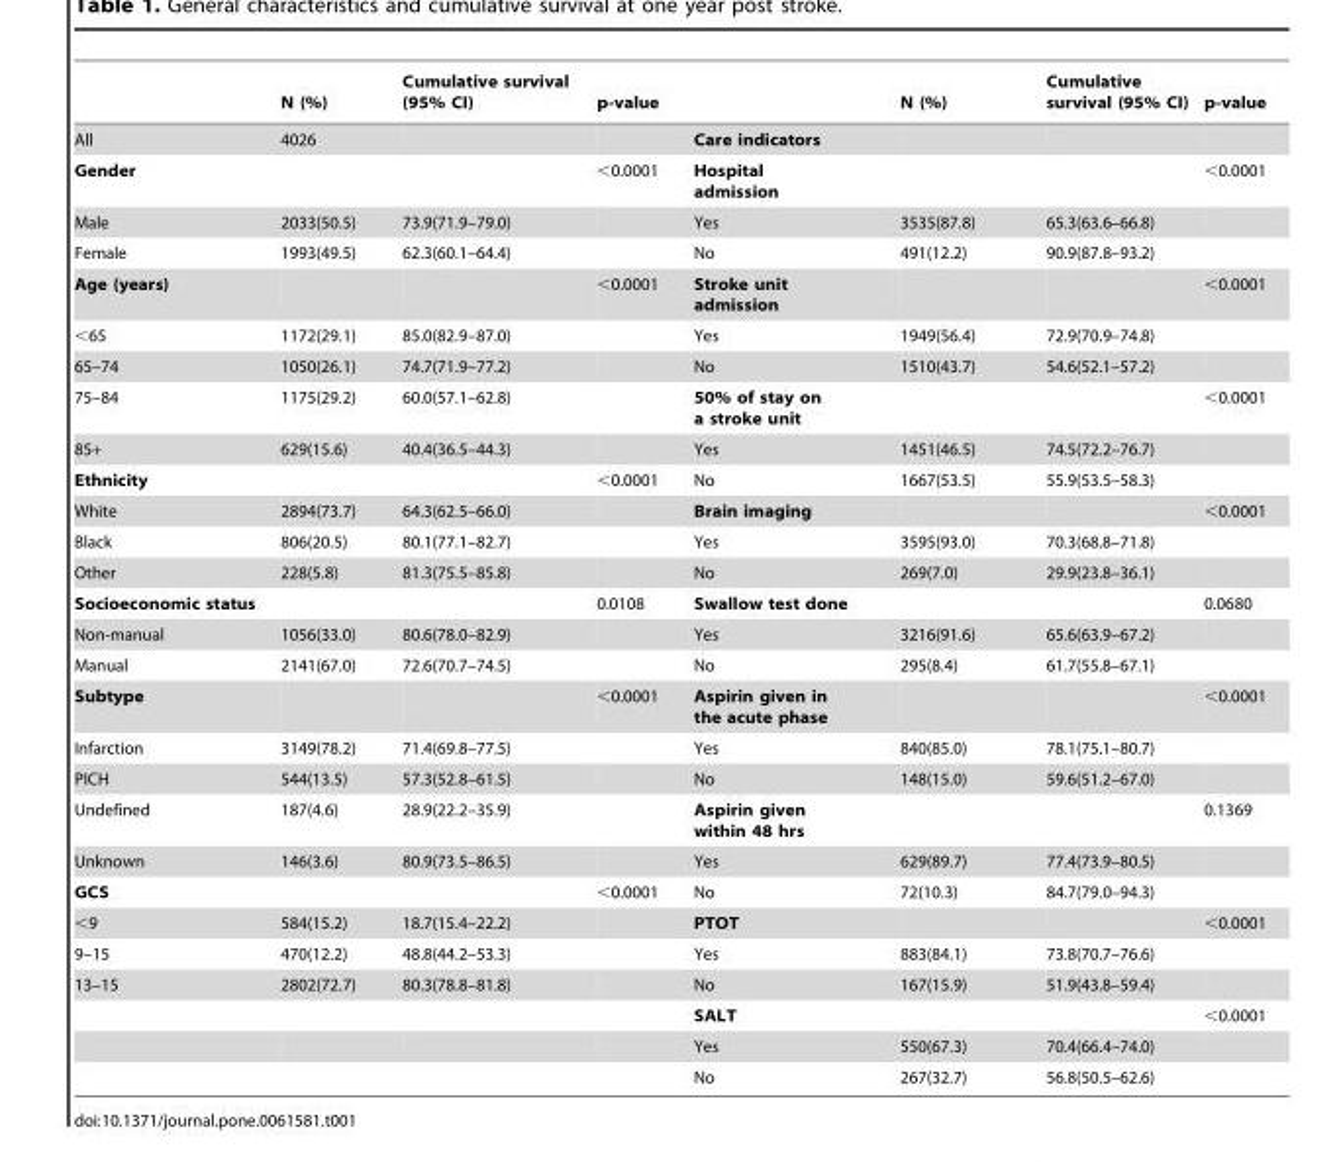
<table><thead><tr><td></td><td>N (%)</td><td>Cumulative survival (95% CI)</td><td>p-value</td><td></td><td>N (%)</td><td>Cumulative survival (95% CI)</td><td>p-value</td></tr></thead><tbody><tr><td>All</td><td>4026</td><td></td><td></td><td>Care indicators</td><td></td><td></td><td></td></tr><tr><td>Gender</td><td></td><td></td><td>&lt;0.0001</td><td>Hospital admission</td><td></td><td></td><td>&lt;0.0001</td></tr><tr><td>Male</td><td>2033(50.5)</td><td>73.9(71.9–79.0)</td><td></td><td>Yes</td><td>3535(87.8)</td><td>65.3(63.6–66.8)</td><td></td></tr><tr><td>Female</td><td>1993(49.5)</td><td>62.3(60.1–64.4)</td><td></td><td>No</td><td>491(12.2)</td><td>90.9(87.8–93.2)</td><td></td></tr><tr><td>Age (years)</td><td></td><td></td><td>&lt;0.0001</td><td>Stroke unit admission</td><td></td><td></td><td>&lt;0.0001</td></tr><tr><td>&lt;65</td><td>1172(29.1)</td><td>85.0(82.9–87.0)</td><td></td><td>Yes</td><td>1949(56.4)</td><td>72.9(70.9–74.8)</td><td></td></tr><tr><td>65–74</td><td>1050(26.1)</td><td>74.7(71.9–77.2)</td><td></td><td>No</td><td>1510(43.7)</td><td>54.6(52.1–57.2)</td><td></td></tr><tr><td>75–84</td><td>1175(29.2)</td><td>60.0(57.1–62.8)</td><td></td><td>50% of stay on a stroke unit</td><td></td><td></td><td>&lt;0.0001</td></tr><tr><td>85+</td><td>629(15.6)</td><td>40.4(36.5–44.3)</td><td></td><td>Yes</td><td>1451(46.5)</td><td>74.5(72.2–76.7)</td><td></td></tr><tr><td>Ethnicity</td><td></td><td></td><td>&lt;0.0001</td><td>No</td><td>1667(53.5)</td><td>55.9(53.5–58.3)</td><td></td></tr><tr><td>White</td><td>2894(73.7)</td><td>64.3(62.5–66.0)</td><td></td><td>Brain imaging</td><td></td><td></td><td>&lt;0.0001</td></tr><tr><td>Black</td><td>806(20.5)</td><td>80.1(77.1–82.7)</td><td></td><td>Yes</td><td>3595(93.0)</td><td>70.3(68.8–71.8)</td><td></td></tr><tr><td>Other</td><td>228(5.8)</td><td>81.3(75.5–85.8)</td><td></td><td>No</td><td>269(7.0)</td><td>29.9(23.8–36.1)</td><td></td></tr><tr><td>Socioeconomic status</td><td></td><td></td><td>0.0108</td><td>Swallow test done</td><td></td><td></td><td>0.0680</td></tr><tr><td>Non-manual</td><td>1056(33.0)</td><td>80.6(78.0–82.9)</td><td></td><td>Yes</td><td>3216(91.6)</td><td>65.6(63.9–67.2)</td><td></td></tr><tr><td>Manual</td><td>2141(67.0)</td><td>72.6(70.7–74.5)</td><td></td><td>No</td><td>295(8.4)</td><td>61.7(55.8–67.1)</td><td></td></tr><tr><td>Subtype</td><td></td><td></td><td>&lt;0.0001</td><td>Aspirin given in the acute phase</td><td></td><td></td><td>&lt;0.0001</td></tr><tr><td>Infarction</td><td>3149(78.2)</td><td>71.4(69.8–77.5)</td><td></td><td>Yes</td><td>840(85.0)</td><td>78.1(75.1–80.7)</td><td></td></tr><tr><td>PICH</td><td>544(13.5)</td><td>57.3(52.8–61.5)</td><td></td><td>No</td><td>148(15.0)</td><td>59.6(51.2–67.0)</td><td></td></tr><tr><td>Undefined</td><td>187(4.6)</td><td>28.9(22.2–35.9)</td><td></td><td>Aspirin given within 48 hrs</td><td></td><td></td><td>0.1369</td></tr><tr><td>Unknown</td><td>146(3.6)</td><td>80.9(73.5–86.5)</td><td></td><td>Yes</td><td>629(89.7)</td><td>77.4(73.9–80.5)</td><td></td></tr><tr><td>GCS</td><td></td><td></td><td>&lt;0.0001</td><td>No</td><td>72(10.3)</td><td>84.7(79.0–94.3)</td><td></td></tr><tr><td>&lt;9</td><td>584(15.2)</td><td>18.7(15.4–22.2)</td><td></td><td>PTOT</td><td></td><td></td><td>&lt;0.0001</td></tr><tr><td>9–15</td><td>470(12.2)</td><td>48.8(44.2–53.3)</td><td></td><td>Yes</td><td>883(84.1)</td><td>73.8(70.7–76.6)</td><td></td></tr><tr><td rowspan="4">13–15</td><td>2802(72.7)</td><td>80.3(78.8–81.8)</td><td></td><td>No</td><td>167(15.9)</td><td>51.9(43.8–59.4)</td><td></td></tr><tr><td></td><td></td><td></td><td>SALT</td><td></td><td></td><td>&lt;0.0001</td></tr><tr><td></td><td></td><td></td><td>Yes</td><td>550(67.3)</td><td>70.4(66.4–74.0)</td><td></td></tr><tr><td></td><td></td><td></td><td>No</td><td>267(32.7)</td><td>56.8(50.5–62.6)</td><td></td></tr></tbody></table>